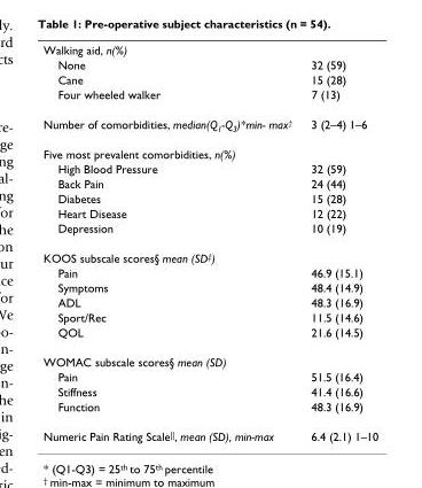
<table><tbody><tr><td colspan="2">Walking aid, n(%)</td></tr><tr><td>None</td><td>32 (59)</td></tr><tr><td>Cane</td><td>15 (28)</td></tr><tr><td>Four wheeled walker</td><td>7 (13)</td></tr><tr><td>Number of comorbidities, median(Q<sub>1</sub>-Q<sub>3</sub>)*min- max<sup>†</sup></td><td>3 (2–4) 1–6</td></tr><tr><td colspan="2">Five most prevalent comorbidities, n(%)</td></tr><tr><td>High Blood Pressure</td><td>32 (59)</td></tr><tr><td>Back Pain</td><td>24 (44)</td></tr><tr><td>Diabetes</td><td>15 (28)</td></tr><tr><td>Heart Disease</td><td>12 (22)</td></tr><tr><td>Depression</td><td>10 (19)</td></tr><tr><td colspan="2">KOOS subscale scores§ mean (SD<sup>‡</sup>)</td></tr><tr><td>Pain</td><td>46.9 (15.1)</td></tr><tr><td>Symptoms</td><td>48.4 (14.9)</td></tr><tr><td>ADL</td><td>48.3 (16.9)</td></tr><tr><td>Sport/Rec</td><td>11.5 (14.6)</td></tr><tr><td>QOL</td><td>21.6 (14.5)</td></tr><tr><td colspan="2">WOMAC subscale scores§ mean (SD)</td></tr><tr><td>Pain</td><td>51.5 (16.4)</td></tr><tr><td>Stiffness</td><td>41.4 (16.6)</td></tr><tr><td>Function</td><td>48.3 (16.9)</td></tr><tr><td>Numeric Pain Rating Scale<sup>||</sup>, mean (SD), min-max</td><td>6.4 (2.1) 1–10</td></tr></tbody></table>